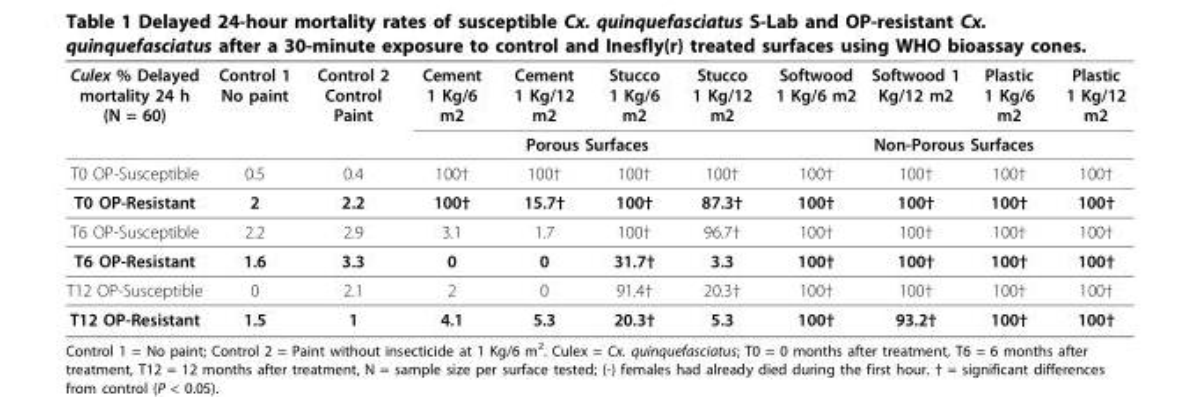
<table><thead><tr><td rowspan="2">Culex % Delayed mortality 24 h (N = 60)</td><td rowspan="2">Control 1 No paint</td><td rowspan="2">Control 2 Control Paint</td><td>Cement 1 Kg/6 m2</td><td>Cement 1 Kg/12 m2</td><td>Stucco 1 Kg/6 m2</td><td>Stucco 1 Kg/12 m2</td><td>Softwood 1 Kg/6 m2</td><td>Softwood 1 Kg/12 m2</td><td>Plastic 1 Kg/6 m2</td><td>Plastic 1 Kg/12 m2</td></tr><tr><td colspan="4">Porous Surfaces</td><td colspan="4">Non-Porous Surfaces</td></tr></thead><tbody><tr><td>T0 OP-Susceptible</td><td>0.5</td><td>0.4</td><td>100†</td><td>100†</td><td>100†</td><td>100†</td><td>100†</td><td>100†</td><td>100†</td><td>100†</td></tr><tr><td>T0 OP-Resistant</td><td>2</td><td>2.2</td><td>100†</td><td>15.7†</td><td>100†</td><td>87.3†</td><td>100†</td><td>100†</td><td>100†</td><td>100†</td></tr><tr><td>T6 OP-Susceptible</td><td>2.2</td><td>2.9</td><td>3.1</td><td>1.7</td><td>100†</td><td>96.7†</td><td>100†</td><td>100†</td><td>100†</td><td>100†</td></tr><tr><td>T6 OP-Resistant</td><td>1.6</td><td>3.3</td><td>0</td><td>0</td><td>31.7†</td><td>3.3</td><td>100†</td><td>100†</td><td>100†</td><td>100†</td></tr><tr><td>T12 OP-Susceptible</td><td>0</td><td>2.1</td><td>2</td><td>0</td><td>91.4†</td><td>20.3†</td><td>100†</td><td>100†</td><td>100†</td><td>100†</td></tr><tr><td>T12 OP-Resistant</td><td>1.5</td><td>1</td><td>4.1</td><td>5.3</td><td>20.3†</td><td>5.3</td><td>100†</td><td>93.2†</td><td>100†</td><td>100†</td></tr></tbody></table>